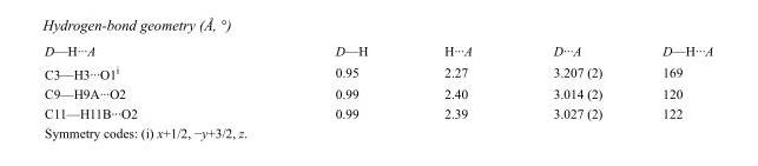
<table><tbody><tr><td>D—H···A</td><td>D—H</td><td>H···A</td><td>D···A</td><td>D—H···A</td></tr><tr><td>C3—H3···O1<sup>i</sup></td><td>0.95</td><td>2.27</td><td>3.207 (2)</td><td>169</td></tr><tr><td>C9—H9A···O2</td><td>0.99</td><td>2.40</td><td>3.014 (2)</td><td>120</td></tr><tr><td>C11—H11B···O2</td><td>0.99</td><td>2.39</td><td>3.027 (2)</td><td>122</td></tr></tbody></table>